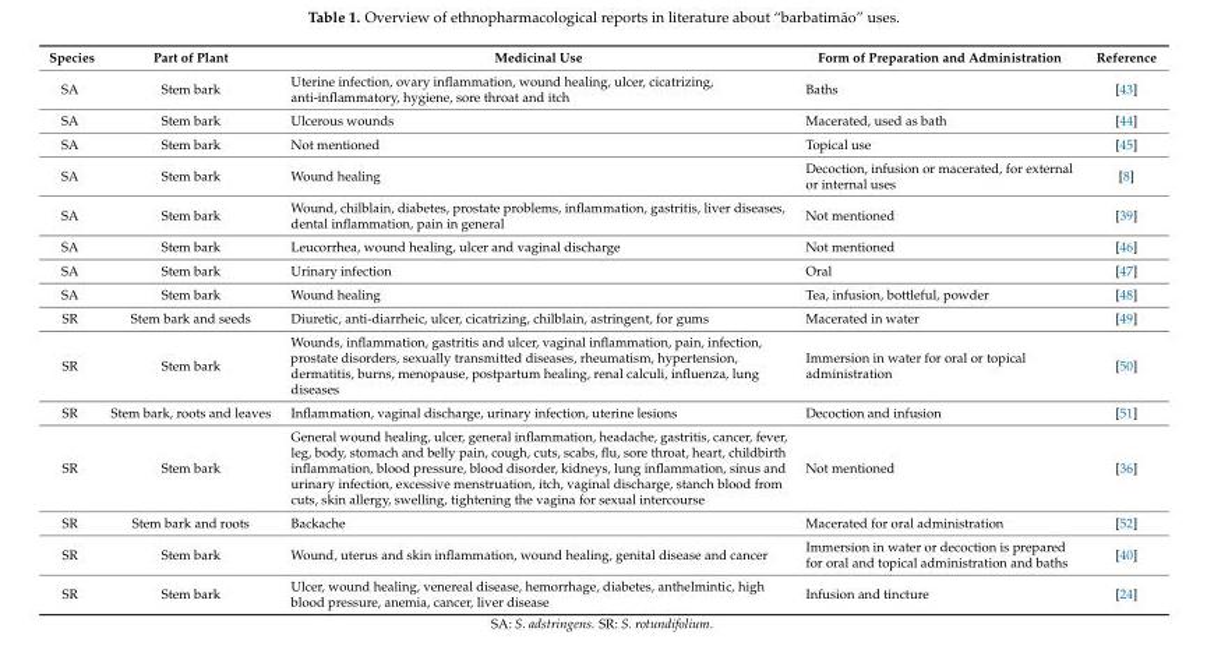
<table><thead><tr><td>Species</td><td>Part of Plant</td><td>Medicinal Use</td><td>Form of Preparation and Administration</td><td>Reference</td></tr></thead><tbody><tr><td>SA</td><td>Stem bark</td><td>Uterine infection, ovary inflammation, wound healing, ulcer, cicatrizing, anti-inflammatory, hygiene, sore throat and itch</td><td>Baths</td><td>[43]</td></tr><tr><td>SA</td><td>Stem bark</td><td>Ulcerous wounds</td><td>Macerated, used as bath</td><td>[44]</td></tr><tr><td>SA</td><td>Stem bark</td><td>Not mentioned</td><td>Topical use</td><td>[45]</td></tr><tr><td>SA</td><td>Stem bark</td><td>Wound healing</td><td>Decoction, infusion or macerated, for external or internal uses</td><td>[8]</td></tr><tr><td>SA</td><td>Stem bark</td><td>Wound, chilblain, diabetes, prostate problems, inflammation, gastritis, liver diseases, dental inflammation, pain in general</td><td>Not mentioned</td><td>[39]</td></tr><tr><td>SA</td><td>Stem bark</td><td>Leucorrhea, wound healing, ulcer and vaginal discharge</td><td>Not mentioned</td><td>[46]</td></tr><tr><td>SA</td><td>Stem bark</td><td>Urinary infection</td><td>Oral</td><td>[47]</td></tr><tr><td>SA</td><td>Stem bark</td><td>Wound healing</td><td>Tea, infusion, bottleful, powder</td><td>[48]</td></tr><tr><td>SR</td><td>Stem bark and seeds</td><td>Diuretic, anti-diarrheic, ulcer, cicatrizing, chilblain, astringent, for gums</td><td>Macerated in water</td><td>[49]</td></tr><tr><td>SR</td><td>Stem bark</td><td>Wounds, inflammation, gastritis and ulcer, vaginal inflammation, pain, infection, prostate disorders, sexually transmitted diseases, rheumatism, hypertension, dermatitis, burns, menopause, postpartum healing, renal calculi, influenza, lung diseases</td><td>Immersion in water for oral or topical administration</td><td>[50]</td></tr><tr><td>SR</td><td>Stem bark, roots and leaves</td><td>Inflammation, vaginal discharge, urinary infection, uterine lesions</td><td>Decoction and infusion</td><td>[51]</td></tr><tr><td>SR</td><td>Stem bark</td><td>General wound healing, ulcer, general inflammation, headache, gastritis, cancer, fever, leg, body, stomach and belly pain, cough, cuts, scabs, flu, sore throat, heart, childbirth inflammation, blood pressure, blood disorder, kidneys, lung inflammation, sinus and urinary infection, excessive menstruation, itch, vaginal discharge, stanch blood from cuts, skin allergy, swelling, tightening the vagina for sexual intercourse</td><td>Not mentioned</td><td>[36]</td></tr><tr><td>SR</td><td>Stem bark and roots</td><td>Backache</td><td>Macerated for oral administration</td><td>[52]</td></tr><tr><td>SR</td><td>Stem bark</td><td>Wound, uterus and skin inflammation, wound healing, genital disease and cancer</td><td>Immersion in water or decoction is prepared for oral and topical administration and baths</td><td>[40]</td></tr><tr><td>SR</td><td>Stem bark</td><td>Ulcer, wound healing, venereal disease, hemorrhage, diabetes, anthelmintic, high blood pressure, anemia, cancer, liver disease</td><td>Infusion and tincture</td><td>[24]</td></tr></tbody></table>